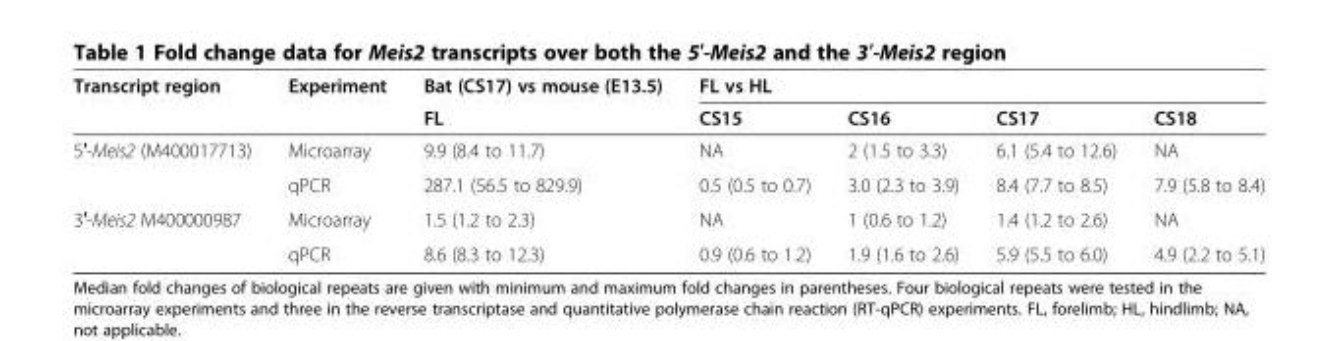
<table><thead><tr><td rowspan="2">Transcript region</td><td rowspan="2">Experiment</td><td rowspan="2">Bat (CS17) vs mouse (E13.5) FL</td><td colspan="4">FL vs HL</td></tr><tr><td>CS15</td><td>CS16</td><td>CS17</td><td>CS18</td></tr></thead><tbody><tr><td rowspan="2">5′-Meis2 (M400017713)</td><td>Microarray</td><td>9.9 (8.4 to 11.7)</td><td>NA</td><td>2 (1.5 to 3.3)</td><td>6.1 (5.4 to 12.6)</td><td>NA</td></tr><tr><td>qPCR</td><td>287.1 (56.5 to 829.9)</td><td>0.5 (0.5 to 0.7)</td><td>3.0 (2.3 to 3.9)</td><td>8.4 (7.7 to 8.5)</td><td>7.9 (5.8 to 8.4)</td></tr><tr><td rowspan="2">3′-Meis2 M400000987</td><td>Microarray</td><td>1.5 (1.2 to 2.3)</td><td>NA</td><td>1 (0.6 to 1.2)</td><td>1.4 (1.2 to 2.6)</td><td>NA</td></tr><tr><td>qPCR</td><td>8.6 (8.3 to 12.3)</td><td>0.9 (0.6 to 1.2)</td><td>1.9 (1.6 to 2.6)</td><td>5.9 (5.5 to 6.0)</td><td>4.9 (2.2 to 5.1)</td></tr></tbody></table>